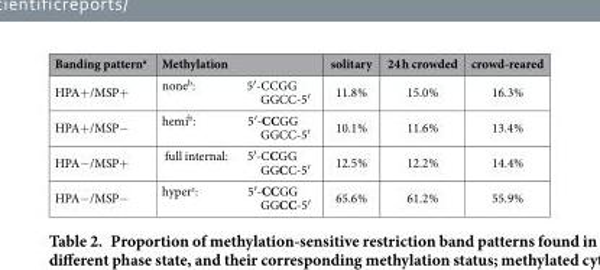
<table><thead><tr><td>Banding pattern<sup>a</sup></td><td>Methylation</td><td>solitary</td><td>24 h crowded</td><td>crowd-reared</td></tr></thead><tbody><tr><td>HPA+ /MSP+</td><td>noneb: 5′ -CCGG GGCC-5′</td><td>11.8%</td><td>15.0%</td><td>16.3%</td></tr><tr><td>HPA+ /MSP−</td><td>hemib: 5′ -CCGG GGCC-5′</td><td>10.1%</td><td>11.6%</td><td>13.4%</td></tr><tr><td>HPA− /MSP+</td><td>full internal: 5′ -CCGG GGCC-5′</td><td>12.5%</td><td>12.2%</td><td>14.4%</td></tr><tr><td>HPA− /MSP−</td><td>hyperc: 5′ -CCGG GGCC-5′</td><td>65.6%</td><td>61.2%</td><td>55.9%</td></tr></tbody></table>